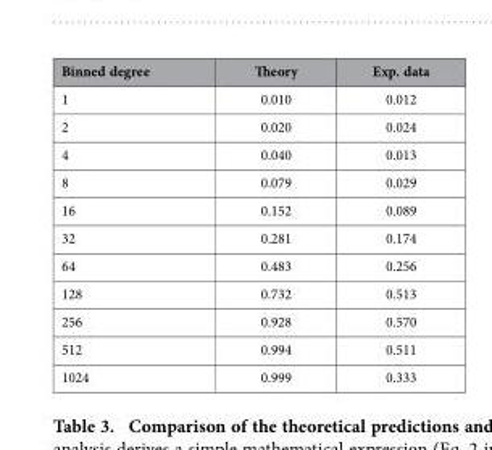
<table><thead><tr><td>Binned degree</td><td>Theory</td><td>Exp. data</td></tr></thead><tbody><tr><td>1</td><td>0.010</td><td>0.012</td></tr><tr><td>2</td><td>0.020</td><td>0.024</td></tr><tr><td>4</td><td>0.040</td><td>0.013</td></tr><tr><td>8</td><td>0.079</td><td>0.029</td></tr><tr><td>16</td><td>0.152</td><td>0.089</td></tr><tr><td>32</td><td>0.281</td><td>0.174</td></tr><tr><td>64</td><td>0.483</td><td>0.256</td></tr><tr><td>128</td><td>0.732</td><td>0.513</td></tr><tr><td>256</td><td>0.928</td><td>0.570</td></tr><tr><td>512</td><td>0.994</td><td>0.511</td></tr><tr><td>1024</td><td>0.999</td><td>0.333</td></tr></tbody></table>